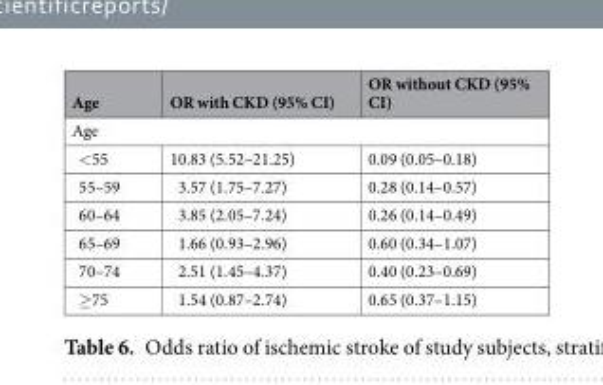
<table><thead><tr><td>Age</td><td>OR with CKD (95% CI)</td><td>OR without CKD (95% CI)</td></tr></thead><tbody><tr><td colspan="3">Age</td></tr><tr><td>&lt;55</td><td>10.83 (5.52–21.25)</td><td>0.09 (0.05–0.18)</td></tr><tr><td>55–59</td><td>3.57 (1.75–7.27)</td><td>0.28 (0.14–0.57)</td></tr><tr><td>60–64</td><td>3.85 (2.05–7.24)</td><td>0.26 (0.14–0.49)</td></tr><tr><td>65–69</td><td>1.66 (0.93–2.96)</td><td>0.60 (0.34–1.07)</td></tr><tr><td>70–74</td><td>2.51 (1.45–4.37)</td><td>0.40 (0.23–0.69)</td></tr><tr><td>≥75</td><td>1.54 (0.87–2.74)</td><td>0.65 (0.37–1.15)</td></tr></tbody></table>